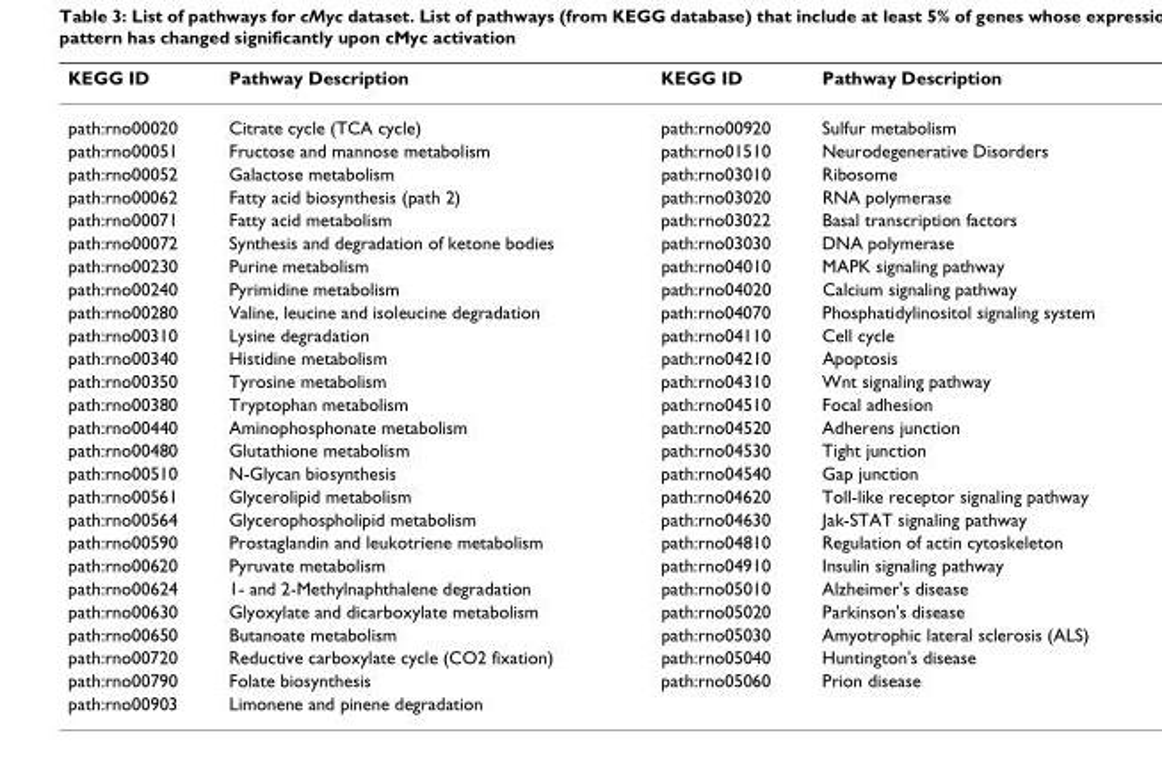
<table><thead><tr><td>KEGG ID</td><td>Pathway Description</td><td>KEGG ID</td><td>Pathway Description</td></tr></thead><tbody><tr><td>path:rno00020</td><td>Citrate cycle (TCA cycle)</td><td>path:rno00920</td><td>Sulfur metabolism</td></tr><tr><td>path:rno00051</td><td>Fructose and mannose metabolism</td><td>path:rno01510</td><td>Neurodegenerative Disorders</td></tr><tr><td>path:rno00052</td><td>Galactose metabolism</td><td>path:rno03010</td><td>Ribosome</td></tr><tr><td>path:rno00062</td><td>Fatty acid biosynthesis (path 2)</td><td>path:rno03020</td><td>RNA polymerase</td></tr><tr><td>path:rno00071</td><td>Fatty acid metabolism</td><td>path:rno03022</td><td>Basal transcription factors</td></tr><tr><td>path:rno00072</td><td>Synthesis and degradation of ketone bodies</td><td>path:rno03030</td><td>DNA polymerase</td></tr><tr><td>path:rno00230</td><td>Purine metabolism</td><td>path:rno04010</td><td>MAPK signaling pathway</td></tr><tr><td>path:rno00240</td><td>Pyrimidine metabolism</td><td>path:rno04020</td><td>Calcium signaling pathway</td></tr><tr><td>path:rno00280</td><td>Valine, leucine and isoleucine degradation</td><td>path:rno04070</td><td>Phosphatidylinositol signaling system</td></tr><tr><td>path:rno00310</td><td>Lysine degradation</td><td>path:rno04110</td><td>Cell cycle</td></tr><tr><td>path:rno00340</td><td>Histidine metabolism</td><td>path:rno04210</td><td>Apoptosis</td></tr><tr><td>path:rno00350</td><td>Tyrosine metabolism</td><td>path:rno04310</td><td>Wnt signaling pathway</td></tr><tr><td>path:rno00380</td><td>Tryptophan metabolism</td><td>path:rno04510</td><td>Focal adhesion</td></tr><tr><td>path:rno00440</td><td>Aminophosphonate metabolism</td><td>path:rno04520</td><td>Adherens junction</td></tr><tr><td>path:rno00480</td><td>Glutathione metabolism</td><td>path:rno04530</td><td>Tight junction</td></tr><tr><td>path:rno00510</td><td>N-Glycan biosynthesis</td><td>path:rno04540</td><td>Gap junction</td></tr><tr><td>path:rno00561</td><td>Glycerolipid metabolism</td><td>path:rno04620</td><td>Toll-like receptor signaling pathway</td></tr><tr><td>path:rno00564</td><td>Glycerophospholipid metabolism</td><td>path:rno04630</td><td>Jak-STAT signaling pathway</td></tr><tr><td>path:rno00590</td><td>Prostaglandin and leukotriene metabolism</td><td>path:rno04810</td><td>Regulation of actin cytoskeleton</td></tr><tr><td>path:rno00620</td><td>Pyruvate metabolism</td><td>path:rno04910</td><td>Insulin signaling pathway</td></tr><tr><td>path:rno00624</td><td>1- and 2-Methylnaphthalene degradation</td><td>path:rno05010</td><td>Alzheimer&#x27;s disease</td></tr><tr><td>path:rno00630</td><td>Glyoxylate and dicarboxylate metabolism</td><td>path:rno05020</td><td>Parkinson&#x27;s disease</td></tr><tr><td>path:rno00650</td><td>Butanoate metabolism</td><td>path:rno05030</td><td>Amyotrophic lateral sclerosis (ALS)</td></tr><tr><td>path:rno00720</td><td>Reductive carboxylate cycle (CO2 fixation)</td><td>path:rno05040</td><td>Huntington&#x27;s disease</td></tr><tr><td>path:rno00790</td><td>Folate biosynthesis</td><td>path:rno05060</td><td>Prion disease</td></tr><tr><td>path:rno00903</td><td>Limonene and pinene degradation</td><td></td><td></td></tr></tbody></table>